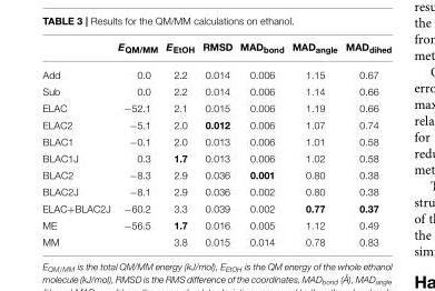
<table><thead><tr><td></td><td>E<sub>QM/MM</sub></td><td>E<sub>EtOH</sub></td><td>RMSD</td><td>MAD<sub>bond</sub></td><td>MAD<sub>angle</sub></td><td>MAD<sub>dihed</sub></td></tr></thead><tbody><tr><td>Add</td><td>0.0</td><td>2.2</td><td>0.014</td><td>0.006</td><td>1.15</td><td>0.67</td></tr><tr><td>Sub</td><td>0.0</td><td>2.2</td><td>0.014</td><td>0.006</td><td>1.14</td><td>0.66</td></tr><tr><td>ELAC</td><td>−52.1</td><td>2.1</td><td>0.015</td><td>0.006</td><td>1.19</td><td>0.66</td></tr><tr><td>ELAC2</td><td>−5.1</td><td>2.0</td><td>0.012</td><td>0.006</td><td>1.07</td><td>0.74</td></tr><tr><td>BLAC1</td><td>−0.1</td><td>2.0</td><td>0.013</td><td>0.006</td><td>1.01</td><td>0.58</td></tr><tr><td>BLAC1J</td><td>0.3</td><td>1.7</td><td>0.013</td><td>0.006</td><td>1.02</td><td>0.58</td></tr><tr><td>BLAC2</td><td>−8.3</td><td>2.9</td><td>0.036</td><td>0.001</td><td>0.80</td><td>0.38</td></tr><tr><td>BLAC2J</td><td>−8.1</td><td>2.9</td><td>0.036</td><td>0.002</td><td>0.80</td><td>0.38</td></tr><tr><td>ELAC+BLAC2J</td><td>−60.2</td><td>3.3</td><td>0.039</td><td>0.002</td><td>0.77</td><td>0.37</td></tr><tr><td>ME</td><td>−56.5</td><td>1.7</td><td>0.016</td><td>0.005</td><td>1.12</td><td>0.49</td></tr><tr><td>MM</td><td></td><td>3.8</td><td>0.015</td><td>0.014</td><td>0.78</td><td>0.83</td></tr></tbody></table>